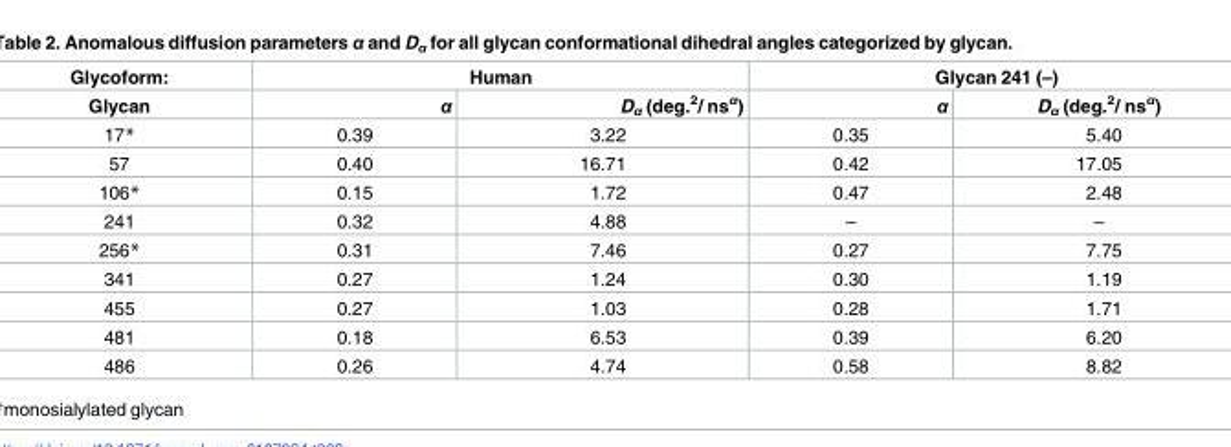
<table><thead><tr><td rowspan="2">Glycoform: Glycan</td><td colspan="2">Human</td><td colspan="2">Glycan 241 (–)</td></tr><tr><td>α</td><td>D<sub>α</sub> (deg.<sup>2</sup>/ ns<sup>α</sup>)</td><td>α</td><td>D<sub>α</sub> (deg.<sup>2</sup>/ ns<sup>α</sup>)</td></tr></thead><tbody><tr><td>17*</td><td>0.39</td><td>3.22</td><td>0.35</td><td>5.40</td></tr><tr><td>57</td><td>0.40</td><td>16.71</td><td>0.42</td><td>17.05</td></tr><tr><td>106*</td><td>0.15</td><td>1.72</td><td>0.47</td><td>2.48</td></tr><tr><td>241</td><td>0.32</td><td>4.88</td><td>–</td><td>–</td></tr><tr><td>256*</td><td>0.31</td><td>7.46</td><td>0.27</td><td>7.75</td></tr><tr><td>341</td><td>0.27</td><td>1.24</td><td>0.30</td><td>1.19</td></tr><tr><td>455</td><td>0.27</td><td>1.03</td><td>0.28</td><td>1.71</td></tr><tr><td>481</td><td>0.18</td><td>6.53</td><td>0.39</td><td>6.20</td></tr><tr><td>486</td><td>0.26</td><td>4.74</td><td>0.58</td><td>8.82</td></tr></tbody></table>